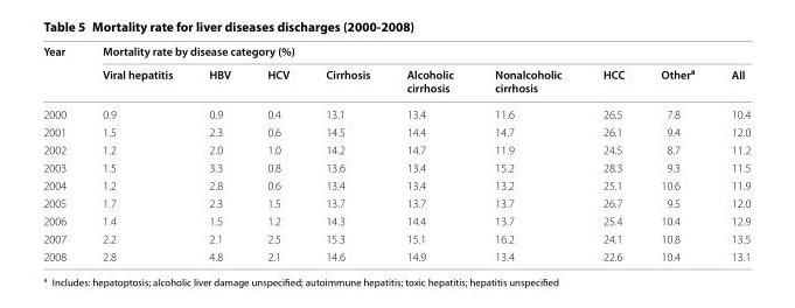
<table><thead><tr><td rowspan="2">Year</td><td colspan="9">Mortality rate by disease category (%)</td></tr><tr><td>Viral hepatitis</td><td>HBV</td><td>HCV</td><td>Cirrhosis</td><td>Alcoholic cirrhosis</td><td>Nonalcoholic cirrhosis</td><td>HCC</td><td>Other<sup>a</sup></td><td>All</td></tr></thead><tbody><tr><td>2000</td><td>0.9</td><td>0.9</td><td>0.4</td><td>13.1</td><td>13.4</td><td>11.6</td><td>26.5</td><td>7.8</td><td>10.4</td></tr><tr><td>2001</td><td>1.5</td><td>2.3</td><td>0.6</td><td>14.5</td><td>14.4</td><td>14.7</td><td>26.1</td><td>9.4</td><td>12.0</td></tr><tr><td>2002</td><td>1.2</td><td>2.0</td><td>1.0</td><td>14.2</td><td>14.7</td><td>11.9</td><td>24.5</td><td>8.7</td><td>11.2</td></tr><tr><td>2003</td><td>1.5</td><td>3.3</td><td>0.8</td><td>13.6</td><td>13.4</td><td>15.2</td><td>28.3</td><td>9.3</td><td>11.5</td></tr><tr><td>2004</td><td>1.2</td><td>2.8</td><td>0.6</td><td>13.4</td><td>13.4</td><td>13.2</td><td>25.1</td><td>10.6</td><td>11.9</td></tr><tr><td>2005</td><td>1.7</td><td>2.3</td><td>1.5</td><td>13.7</td><td>13.7</td><td>13.7</td><td>26.7</td><td>9.5</td><td>12.0</td></tr><tr><td>2006</td><td>1.4</td><td>1.5</td><td>1.2</td><td>14.3</td><td>14.4</td><td>13.7</td><td>25.4</td><td>10.4</td><td>12.9</td></tr><tr><td>2007</td><td>2.2</td><td>2.1</td><td>2.5</td><td>15.3</td><td>15.1</td><td>16.2</td><td>24.1</td><td>10.8</td><td>13.5</td></tr><tr><td>2008</td><td>2.8</td><td>4.8</td><td>2.1</td><td>14.6</td><td>14.9</td><td>13.4</td><td>22.6</td><td>10.4</td><td>13.1</td></tr></tbody></table>